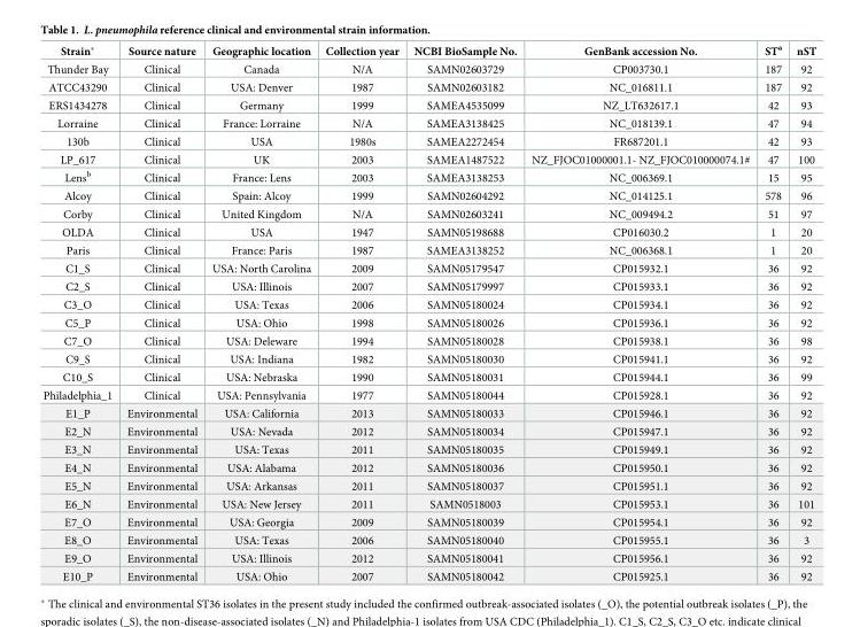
<table><thead><tr><td>Strain*</td><td>Source nature</td><td>Geographic location</td><td>Collection year</td><td>NCBI BioSample No.</td><td>GenBank accession No.</td><td>ST<sup>a</sup></td><td>nST</td></tr></thead><tbody><tr><td>Thunder Bay</td><td>Clinical</td><td>Canada</td><td>N/A</td><td>SAMN02603729</td><td>CP003730.1</td><td>187</td><td>92</td></tr><tr><td>ATCC43290</td><td>Clinical</td><td>USA: Denver</td><td>1987</td><td>SAMN02603182</td><td>NC_016811.1</td><td>187</td><td>92</td></tr><tr><td>ERS1434278</td><td>Clinical</td><td>Germany</td><td>1999</td><td>SAMEA4535099</td><td>NZ_LT632617.1</td><td>42</td><td>93</td></tr><tr><td>Lorraine</td><td>Clinical</td><td>France: Lorraine</td><td>N/A</td><td>SAMEA3138425</td><td>NC_018139.1</td><td>47</td><td>94</td></tr><tr><td>130b</td><td>Clinical</td><td>USA</td><td>1980s</td><td>SAMEA2272454</td><td>FR687201.1</td><td>42</td><td>93</td></tr><tr><td>LP_617</td><td>Clinical</td><td>UK</td><td>2003</td><td>SAMEA1487522</td><td>NZ_FJOC01000001.1- NZ_FJOC010000074.1#</td><td>47</td><td>100</td></tr><tr><td>Lens<sup>b</sup></td><td>Clinical</td><td>France: Lens</td><td>2003</td><td>SAMEA3138253</td><td>NC_006369.1</td><td>15</td><td>95</td></tr><tr><td>Alcoy</td><td>Clinical</td><td>Spain: Alcoy</td><td>1999</td><td>SAMN02604292</td><td>NC_014125.1</td><td>578</td><td>96</td></tr><tr><td>Corby</td><td>Clinical</td><td>United Kingdom</td><td>N/A</td><td>SAMN02603241</td><td>NC_009494.2</td><td>51</td><td>97</td></tr><tr><td>OLDA</td><td>Clinical</td><td>USA</td><td>1947</td><td>SAMN05198688</td><td>CP016030.2</td><td>1</td><td>20</td></tr><tr><td>Paris</td><td>Clinical</td><td>France: Paris</td><td>1987</td><td>SAMEA3138252</td><td>NC_006368.1</td><td>1</td><td>20</td></tr><tr><td>C1_S</td><td>Clinical</td><td>USA: North Carolina</td><td>2009</td><td>SAMN05179547</td><td>CP015932.1</td><td>36</td><td>92</td></tr><tr><td>C2_S</td><td>Clinical</td><td>USA: Illinois</td><td>2007</td><td>SAMN05179997</td><td>CP015933.1</td><td>36</td><td>92</td></tr><tr><td>C3_O</td><td>Clinical</td><td>USA: Texas</td><td>2006</td><td>SAMN05180024</td><td>CP015934.1</td><td>36</td><td>92</td></tr><tr><td>C5_P</td><td>Clinical</td><td>USA: Ohio</td><td>1998</td><td>SAMN05180026</td><td>CP015936.1</td><td>36</td><td>92</td></tr><tr><td>C7_O</td><td>Clinical</td><td>USA: Deleware</td><td>1994</td><td>SAMN05180028</td><td>CP015938.1</td><td>36</td><td>98</td></tr><tr><td>C9_S</td><td>Clinical</td><td>USA: Indiana</td><td>1982</td><td>SAMN05180030</td><td>CP015941.1</td><td>36</td><td>92</td></tr><tr><td>C10_S</td><td>Clinical</td><td>USA: Nebraska</td><td>1990</td><td>SAMN05180031</td><td>CP015944.1</td><td>36</td><td>99</td></tr><tr><td>Philadelphia_1</td><td>Clinical</td><td>USA: Pennsylvania</td><td>1977</td><td>SAMN05180044</td><td>CP015928.1</td><td>36</td><td>92</td></tr><tr><td>E1_P</td><td>Environmental</td><td>USA: California</td><td>2013</td><td>SAMN05180033</td><td>CP015946.1</td><td>36</td><td>92</td></tr><tr><td>E2_N</td><td>Environmental</td><td>USA: Nevada</td><td>2012</td><td>SAMN05180034</td><td>CP015947.1</td><td>36</td><td>92</td></tr><tr><td>E3_N</td><td>Environmental</td><td>USA: Texas</td><td>2011</td><td>SAMN05180035</td><td>CP015949.1</td><td>36</td><td>92</td></tr><tr><td>E4_N</td><td>Environmental</td><td>USA: Alabama</td><td>2012</td><td>SAMN05180036</td><td>CP015950.1</td><td>36</td><td>92</td></tr><tr><td>E5_N</td><td>Environmental</td><td>USA: Arkansas</td><td>2011</td><td>SAMN05180037</td><td>CP015951.1</td><td>36</td><td>92</td></tr><tr><td>E6_N</td><td>Environmental</td><td>USA: New Jersey</td><td>2011</td><td>SAMN0518003</td><td>CP015953.1</td><td>36</td><td>101</td></tr><tr><td>E7_O</td><td>Environmental</td><td>USA: Georgia</td><td>2009</td><td>SAMN05180039</td><td>CP015954.1</td><td>36</td><td>92</td></tr><tr><td>E8_O</td><td>Environmental</td><td>USA: Texas</td><td>2006</td><td>SAMN05180040</td><td>CP015955.1</td><td>36</td><td>3</td></tr><tr><td>E9_O</td><td>Environmental</td><td>USA: Illinois</td><td>2012</td><td>SAMN05180041</td><td>CP015956.1</td><td>36</td><td>92</td></tr><tr><td>E10_P</td><td>Environmental</td><td>USA: Ohio</td><td>2007</td><td>SAMN05180042</td><td>CP015925.1</td><td>36</td><td>92</td></tr></tbody></table>